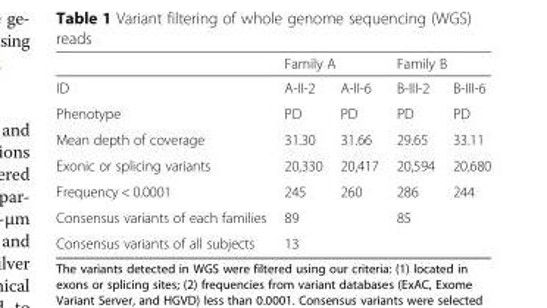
<table><thead><tr><td rowspan="2">ID</td><td colspan="2">Family A</td><td colspan="2">Family B</td></tr><tr><td>A-II-2</td><td>A-II-6</td><td>B-III-2</td><td>B-III-6</td></tr></thead><tbody><tr><td>Phenotype</td><td>PD</td><td>PD</td><td>PD</td><td>PD</td></tr><tr><td>Mean depth of coverage</td><td>31.30</td><td>31.66</td><td>29.65</td><td>33.11</td></tr><tr><td>Exonic or splicing variants</td><td>20,330</td><td>20,417</td><td>20,594</td><td>20,680</td></tr><tr><td>Frequency &lt; 0.0001</td><td>245</td><td>260</td><td>286</td><td>244</td></tr><tr><td>Consensus variants of each families</td><td colspan="2">89</td><td colspan="2">85</td></tr><tr><td>Consensus variants of all subjects</td><td colspan="4">13</td></tr></tbody></table>